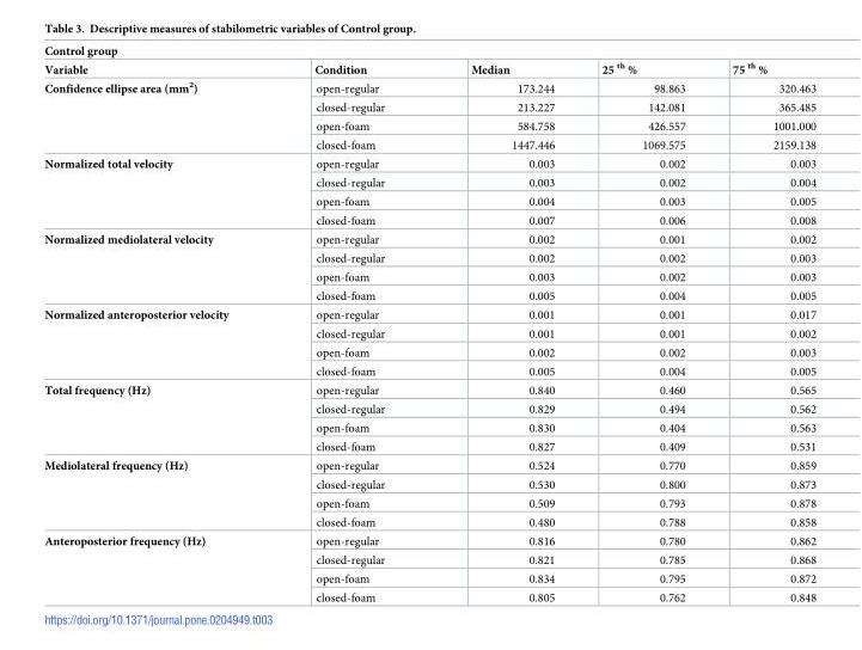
<table><thead><tr><td colspan="5">Control group</td></tr><tr><td>Variable</td><td>Condition</td><td>Median</td><td>25 <sup>th</sup> %</td><td>75 <sup>th</sup> %</td></tr></thead><tbody><tr><td rowspan="4">Confidence ellipse area (mm<sup>2</sup>)</td><td>open-regular</td><td>173.244</td><td>98.863</td><td>320.463</td></tr><tr><td>closed-regular</td><td>213.227</td><td>142.081</td><td>365.485</td></tr><tr><td>open-foam</td><td>584.758</td><td>426.557</td><td>1001.000</td></tr><tr><td>closed-foam</td><td>1447.446</td><td>1069.575</td><td>2159.138</td></tr><tr><td rowspan="4">Normalized total velocity</td><td>open-regular</td><td>0.003</td><td>0.002</td><td>0.003</td></tr><tr><td>closed-regular</td><td>0.003</td><td>0.002</td><td>0.004</td></tr><tr><td>open-foam</td><td>0.004</td><td>0.003</td><td>0.005</td></tr><tr><td>closed-foam</td><td>0.007</td><td>0.006</td><td>0.008</td></tr><tr><td rowspan="4">Normalized mediolateral velocity</td><td>open-regular</td><td>0.002</td><td>0.001</td><td>0.002</td></tr><tr><td>closed-regular</td><td>0.002</td><td>0.002</td><td>0.003</td></tr><tr><td>open-foam</td><td>0.003</td><td>0.002</td><td>0.003</td></tr><tr><td>closed-foam</td><td>0.005</td><td>0.004</td><td>0.005</td></tr><tr><td rowspan="4">Normalized anteroposterior velocity</td><td>open-regular</td><td>0.001</td><td>0.001</td><td>0.017</td></tr><tr><td>closed-regular</td><td>0.001</td><td>0.001</td><td>0.002</td></tr><tr><td>open-foam</td><td>0.002</td><td>0.002</td><td>0.003</td></tr><tr><td>closed-foam</td><td>0.005</td><td>0.004</td><td>0.005</td></tr><tr><td rowspan="4">Total frequency (Hz)</td><td>open-regular</td><td>0.840</td><td>0.460</td><td>0.565</td></tr><tr><td>closed-regular</td><td>0.829</td><td>0.494</td><td>0.562</td></tr><tr><td>open-foam</td><td>0.830</td><td>0.404</td><td>0.563</td></tr><tr><td>closed-foam</td><td>0.827</td><td>0.409</td><td>0.531</td></tr><tr><td rowspan="4">Mediolateral frequency (Hz)</td><td>open-regular</td><td>0.524</td><td>0.770</td><td>0.859</td></tr><tr><td>closed-regular</td><td>0.530</td><td>0.800</td><td>0.873</td></tr><tr><td>open-foam</td><td>0.509</td><td>0.793</td><td>0.878</td></tr><tr><td>closed-foam</td><td>0.480</td><td>0.788</td><td>0.858</td></tr><tr><td rowspan="4">Anteroposterior frequency (Hz)</td><td>open-regular</td><td>0.816</td><td>0.780</td><td>0.862</td></tr><tr><td>closed-regular</td><td>0.821</td><td>0.785</td><td>0.868</td></tr><tr><td>open-foam</td><td>0.834</td><td>0.795</td><td>0.872</td></tr><tr><td>closed-foam</td><td>0.805</td><td>0.762</td><td>0.848</td></tr></tbody></table>